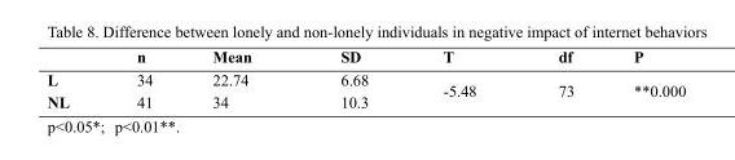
<table><thead><tr><td></td><td>n</td><td>Mean</td><td>SD</td><td>T</td><td>df</td><td>P</td></tr></thead><tbody><tr><td>L</td><td>34</td><td>22.74</td><td>6.68</td><td rowspan="2">-5.48</td><td rowspan="2">73</td><td rowspan="2">**0.000</td></tr><tr><td>NL</td><td>41</td><td>34</td><td>10.3</td></tr></tbody></table>